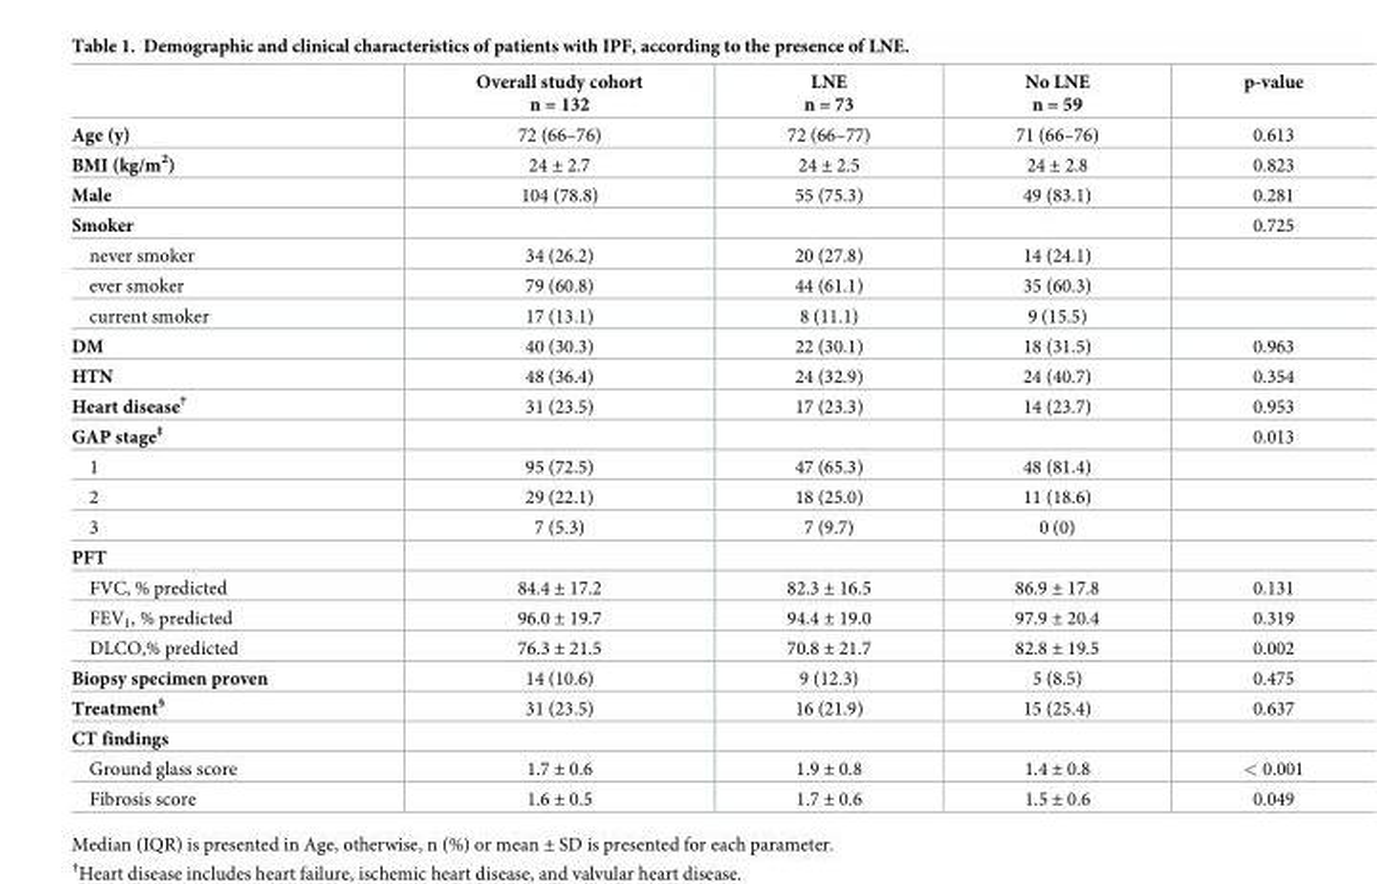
<table><thead><tr><td></td><td>Overall study cohort n = 132</td><td>LNE n = 73</td><td>No LNE n = 59</td><td>p-value</td></tr></thead><tbody><tr><td>Age (y)</td><td>72 (66–76)</td><td>72 (66–77)</td><td>71 (66–76)</td><td>0.613</td></tr><tr><td>BMI (kg/m<sup>2</sup>)</td><td>24 ± 2.7</td><td>24 ± 2.5</td><td>24 ± 2.8</td><td>0.823</td></tr><tr><td>Male</td><td>104 (78.8)</td><td>55 (75.3)</td><td>49 (83.1)</td><td>0.281</td></tr><tr><td>Smoker</td><td></td><td></td><td></td><td>0.725</td></tr><tr><td>never smoker</td><td>34 (26.2)</td><td>20 (27.8)</td><td>14 (24.1)</td><td></td></tr><tr><td>ever smoker</td><td>79 (60.8)</td><td>44 (61.1)</td><td>35 (60.3)</td><td></td></tr><tr><td>current smoker</td><td>17 (13.1)</td><td>8 (11.1)</td><td>9 (15.5)</td><td></td></tr><tr><td>DM</td><td>40 (30.3)</td><td>22 (30.1)</td><td>18 (31.5)</td><td>0.963</td></tr><tr><td>HTN</td><td>48 (36.4)</td><td>24 (32.9)</td><td>24 (40.7)</td><td>0.354</td></tr><tr><td>Heart disease<sup>†</sup></td><td>31 (23.5)</td><td>17 (23.3)</td><td>14 (23.7)</td><td>0.953</td></tr><tr><td>GAP stage<sup>‡</sup></td><td></td><td></td><td></td><td>0.013</td></tr><tr><td>1</td><td>95 (72.5)</td><td>47 (65.3)</td><td>48 (81.4)</td><td></td></tr><tr><td>2</td><td>29 (22.1)</td><td>18 (25.0)</td><td>11 (18.6)</td><td></td></tr><tr><td>3</td><td>7 (5.3)</td><td>7 (9.7)</td><td>0 (0)</td><td></td></tr><tr><td colspan="5">PFT</td></tr><tr><td>FVC, % predicted</td><td>84.4 ± 17.2</td><td>82.3 ± 16.5</td><td>86.9 ± 17.8</td><td>0.131</td></tr><tr><td>FEV<sub>1</sub>, % predicted</td><td>96.0 ± 19.7</td><td>94.4 ± 19.0</td><td>97.9 ± 20.4</td><td>0.319</td></tr><tr><td>DLCO,% predicted</td><td>76.3 ± 21.5</td><td>70.8 ± 21.7</td><td>82.8 ± 19.5</td><td>0.002</td></tr><tr><td>Biopsy specimen proven</td><td>14 (10.6)</td><td>9 (12.3)</td><td>5 (8.5)</td><td>0.475</td></tr><tr><td>Treatment<sup>§</sup></td><td>31 (23.5)</td><td>16 (21.9)</td><td>15 (25.4)</td><td>0.637</td></tr><tr><td colspan="5">CT findings</td></tr><tr><td>Ground glass score</td><td>1.7 ± 0.6</td><td>1.9 ± 0.8</td><td>1.4 ± 0.8</td><td>&lt; 0.001</td></tr><tr><td>Fibrosis score</td><td>1.6 ± 0.5</td><td>1.7 ± 0.6</td><td>1.5 ± 0.6</td><td>0.049</td></tr></tbody></table>